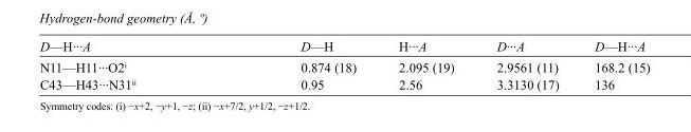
<table><tbody><tr><td>D—H···A</td><td>D—H</td><td>H···A</td><td>D···A</td><td>D—H···A</td></tr><tr><td>N11—H11···O2<sup>i</sup></td><td>0.874 (18)</td><td>2.095 (19)</td><td>2.9561 (11)</td><td>168.2 (15)</td></tr><tr><td>C43—H43···N31<sup>ii</sup></td><td>0.95</td><td>2.56</td><td>3.3130 (17)</td><td>136</td></tr></tbody></table>